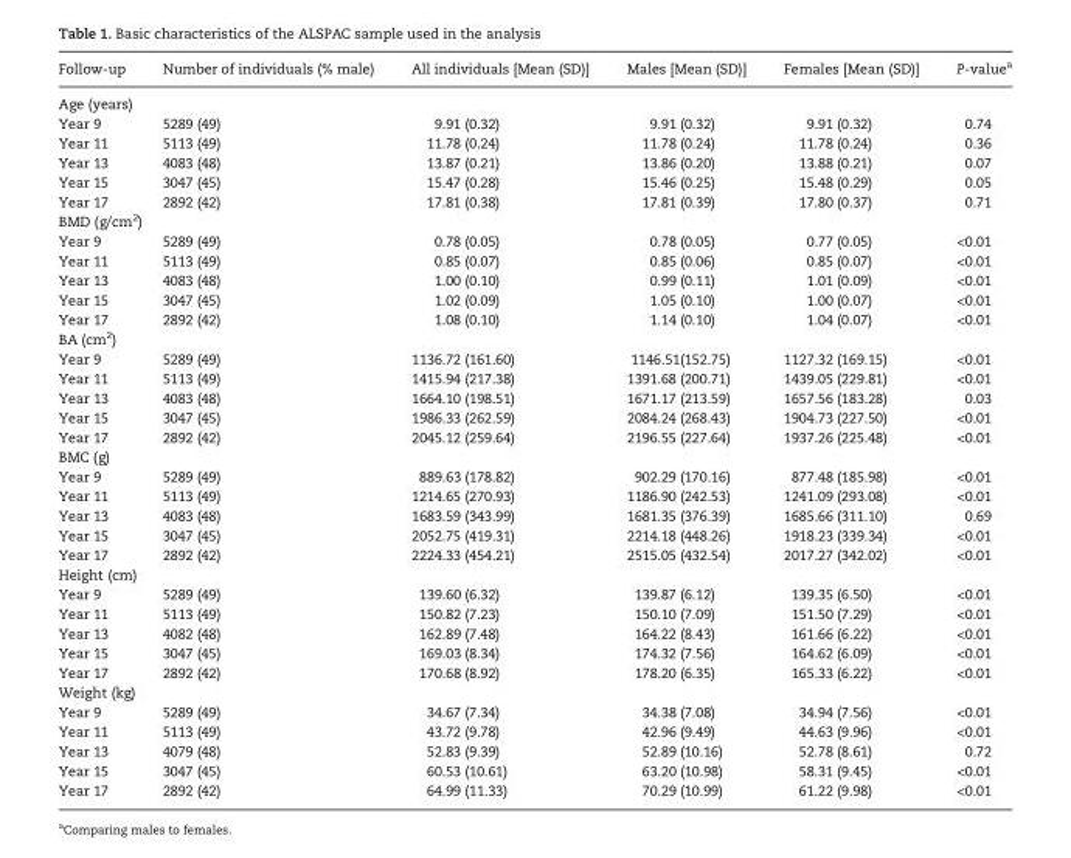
<table><thead><tr><td>Follow-up</td><td>Number of individuals (% male)</td><td>All individuals [Mean (SD)]</td><td>Males [Mean (SD)]</td><td>Females [Mean (SD)]</td><td>P-value<sup>a</sup></td></tr></thead><tbody><tr><td colspan="6">Age (years)</td></tr><tr><td>Year 9</td><td>5289 (49)</td><td>9.91 (0.32)</td><td>9.91 (0.32)</td><td>9.91 (0.32)</td><td>0.74</td></tr><tr><td>Year 11</td><td>5113 (49)</td><td>11.78 (0.24)</td><td>11.78 (0.24)</td><td>11.78 (0.24)</td><td>0.36</td></tr><tr><td>Year 13</td><td>4083 (48)</td><td>13.87 (0.21)</td><td>13.86 (0.20)</td><td>13.88 (0.21)</td><td>0.07</td></tr><tr><td>Year 15</td><td>3047 (45)</td><td>15.47 (0.28)</td><td>15.46 (0.25)</td><td>15.48 (0.29)</td><td>0.05</td></tr><tr><td>Year 17</td><td>2892 (42)</td><td>17.81 (0.38)</td><td>17.81 (0.39)</td><td>17.80 (0.37)</td><td>0.71</td></tr><tr><td colspan="6">BMD (g/cm<sup>2</sup>)</td></tr><tr><td>Year 9</td><td>5289 (49)</td><td>0.78 (0.05)</td><td>0.78 (0.05)</td><td>0.77 (0.05)</td><td>&lt;0.01</td></tr><tr><td>Year 11</td><td>5113 (49)</td><td>0.85 (0.07)</td><td>0.85 (0.06)</td><td>0.85 (0.07)</td><td>&lt;0.01</td></tr><tr><td>Year 13</td><td>4083 (48)</td><td>1.00 (0.10)</td><td>0.99 (0.11)</td><td>1.01 (0.09)</td><td>&lt;0.01</td></tr><tr><td>Year 15</td><td>3047 (45)</td><td>1.02 (0.09)</td><td>1.05 (0.10)</td><td>1.00 (0.07)</td><td>&lt;0.01</td></tr><tr><td>Year 17</td><td>2892 (42)</td><td>1.08 (0.10)</td><td>1.14 (0.10)</td><td>1.04 (0.07)</td><td>&lt;0.01</td></tr><tr><td colspan="6">BA (cm<sup>2</sup>)</td></tr><tr><td>Year 9</td><td>5289 (49)</td><td>1136.72 (161.60)</td><td>1146.51(152.75)</td><td>1127.32 (169.15)</td><td>&lt;0.01</td></tr><tr><td>Year 11</td><td>5113 (49)</td><td>1415.94 (217.38)</td><td>1391.68 (200.71)</td><td>1439.05 (229.81)</td><td>&lt;0.01</td></tr><tr><td>Year 13</td><td>4083 (48)</td><td>1664.10 (198.51)</td><td>1671.17 (213.59)</td><td>1657.56 (183.28)</td><td>0.03</td></tr><tr><td>Year 15</td><td>3047 (45)</td><td>1986.33 (262.59)</td><td>2084.24 (268.43)</td><td>1904.73 (227.50)</td><td>&lt;0.01</td></tr><tr><td>Year 17</td><td>2892 (42)</td><td>2045.12 (259.64)</td><td>2196.55 (227.64)</td><td>1937.26 (225.48)</td><td>&lt;0.01</td></tr><tr><td colspan="6">BMC (g)</td></tr><tr><td>Year 9</td><td>5289 (49)</td><td>889.63 (178.82)</td><td>902.29 (170.16)</td><td>877.48 (185.98)</td><td>&lt;0.01</td></tr><tr><td>Year 11</td><td>5113 (49)</td><td>1214.65 (270.93)</td><td>1186.90 (242.53)</td><td>1241.09 (293.08)</td><td>&lt;0.01</td></tr><tr><td>Year 13</td><td>4083 (48)</td><td>1683.59 (343.99)</td><td>1681.35 (376.39)</td><td>1685.66 (311.10)</td><td>0.69</td></tr><tr><td>Year 15</td><td>3047 (45)</td><td>2052.75 (419.31)</td><td>2214.18 (448.26)</td><td>1918.23 (339.34)</td><td>&lt;0.01</td></tr><tr><td>Year 17</td><td>2892 (42)</td><td>2224.33 (454.21)</td><td>2515.05 (432.54)</td><td>2017.27 (342.02)</td><td>&lt;0.01</td></tr><tr><td colspan="6">Height (cm)</td></tr><tr><td>Year 9</td><td>5289 (49)</td><td>139.60 (6.32)</td><td>139.87 (6.12)</td><td>139.35 (6.50)</td><td>&lt;0.01</td></tr><tr><td>Year 11</td><td>5113 (49)</td><td>150.82 (7.23)</td><td>150.10 (7.09)</td><td>151.50 (7.29)</td><td>&lt;0.01</td></tr><tr><td>Year 13</td><td>4082 (48)</td><td>162.89 (7.48)</td><td>164.22 (8.43)</td><td>161.66 (6.22)</td><td>&lt;0.01</td></tr><tr><td>Year 15</td><td>3047 (45)</td><td>169.03 (8.34)</td><td>174.32 (7.56)</td><td>164.62 (6.09)</td><td>&lt;0.01</td></tr><tr><td>Year 17</td><td>2892 (42)</td><td>170.68 (8.92)</td><td>178.20 (6.35)</td><td>165.33 (6.22)</td><td>&lt;0.01</td></tr><tr><td colspan="6">Weight (kg)</td></tr><tr><td>Year 9</td><td>5289 (49)</td><td>34.67 (7.34)</td><td>34.38 (7.08)</td><td>34.94 (7.56)</td><td>&lt;0.01</td></tr><tr><td>Year 11</td><td>5113 (49)</td><td>43.72 (9.78)</td><td>42.96 (9.49)</td><td>44.63 (9.96)</td><td>&lt;0.01</td></tr><tr><td>Year 13</td><td>4079 (48)</td><td>52.83 (9.39)</td><td>52.89 (10.16)</td><td>52.78 (8.61)</td><td>0.72</td></tr><tr><td>Year 15</td><td>3047 (45)</td><td>60.53 (10.61)</td><td>63.20 (10.98)</td><td>58.31 (9.45)</td><td>&lt;0.01</td></tr><tr><td>Year 17</td><td>2892 (42)</td><td>64.99 (11.33)</td><td>70.29 (10.99)</td><td>61.22 (9.98)</td><td>&lt;0.01</td></tr></tbody></table>